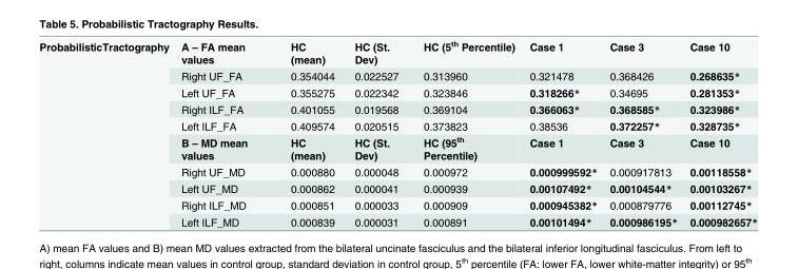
<table><tbody><tr><td rowspan="10">ProbabilisticTractography</td><td>A – FA mean values</td><td>HC (mean)</td><td>HC (St. Dev)</td><td>HC (5<sup>th</sup> Percentile)</td><td>Case 1</td><td>Case 3</td><td>Case 10</td></tr><tr><td>Right UF_FA</td><td>0.354044</td><td>0.022527</td><td>0.313960</td><td>0.321478</td><td>0.368426</td><td>0.268635*</td></tr><tr><td>Left UF_FA</td><td>0.355275</td><td>0.022342</td><td>0.323846</td><td>0.318266*</td><td>0.34695</td><td>0.281353*</td></tr><tr><td>Right ILF_FA</td><td>0.401055</td><td>0.019568</td><td>0.369104</td><td>0.366063*</td><td>0.368585*</td><td>0.323986*</td></tr><tr><td>Left ILF_FA</td><td>0.409574</td><td>0.020515</td><td>0.373823</td><td>0.38536</td><td>0.372257*</td><td>0.328735*</td></tr><tr><td>B – MD mean values</td><td>HC (mean)</td><td>HC (St. Dev)</td><td>HC (95<sup>th</sup> Percentile)</td><td>Case 1</td><td>Case 3</td><td>Case 10</td></tr><tr><td>Right UF_MD</td><td>0.000880</td><td>0.000048</td><td>0.000972</td><td>0.000999592*</td><td>0.000917813</td><td>0.00118558*</td></tr><tr><td>Left UF_MD</td><td>0.000862</td><td>0.000041</td><td>0.000939</td><td>0.00107492*</td><td>0.00104544*</td><td>0.00103267*</td></tr><tr><td>Right ILF_MD</td><td>0.000851</td><td>0.000033</td><td>0.000909</td><td>0.000945382*</td><td>0.000879776</td><td>0.00112745*</td></tr><tr><td>Left ILF_MD</td><td>0.000839</td><td>0.000031</td><td>0.000891</td><td>0.00101494*</td><td>0.000986195*</td><td>0.000982657*</td></tr></tbody></table>